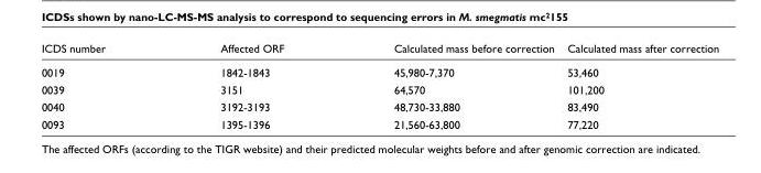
<table><thead><tr><td>ICDS number</td><td>Affected ORF</td><td>Calculated mass before correction</td><td>Calculated mass after correction</td></tr></thead><tbody><tr><td>0019</td><td>1842-1843</td><td>45,980-7,370</td><td>53,460</td></tr><tr><td>0039</td><td>3151</td><td>64,570</td><td>101,200</td></tr><tr><td>0040</td><td>3192-3193</td><td>48,730-33,880</td><td>83,490</td></tr><tr><td>0093</td><td>1395-1396</td><td>21,560-63,800</td><td>77,220</td></tr></tbody></table>